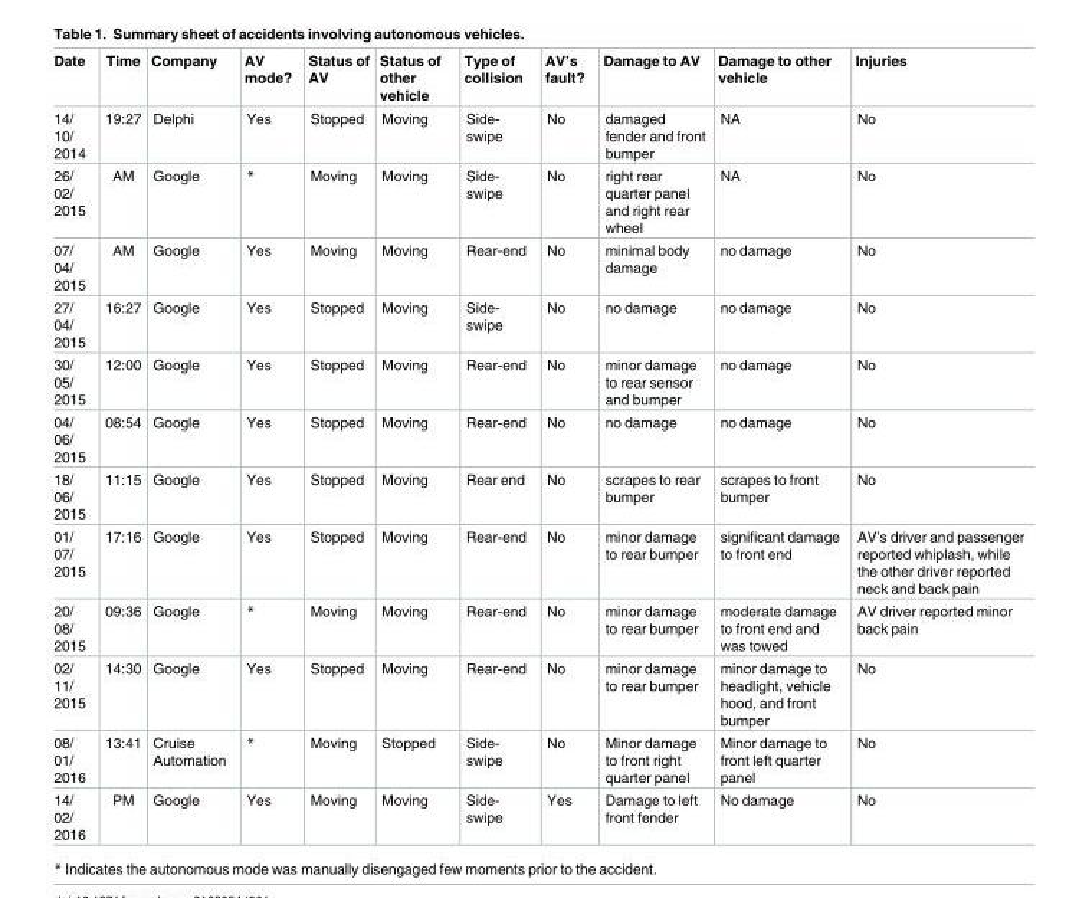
<table><thead><tr><td>Date</td><td>Time</td><td>Company</td><td>AV mode?</td><td>Status of AV</td><td>Status of other vehicle</td><td>Type of collision</td><td>AV’s fault?</td><td>Damage to AV</td><td>Damage to other vehicle</td><td>Injuries</td></tr></thead><tbody><tr><td>14/ 10/ 2014</td><td>19:27</td><td>Delphi</td><td>Yes</td><td>Stopped</td><td>Moving</td><td>Side- swipe</td><td>No</td><td>damaged fender and front bumper</td><td>NA</td><td>No</td></tr><tr><td>26/ 02/ 2015</td><td>AM</td><td>Google</td><td>*</td><td>Moving</td><td>Moving</td><td>Side- swipe</td><td>No</td><td>right rear quarter panel and right rear wheel</td><td>NA</td><td>No</td></tr><tr><td>07/ 04/ 2015</td><td>AM</td><td>Google</td><td>Yes</td><td>Moving</td><td>Moving</td><td>Rear-end</td><td>No</td><td>minimal body damage</td><td>no damage</td><td>No</td></tr><tr><td>27/ 04/ 2015</td><td>16:27</td><td>Google</td><td>Yes</td><td>Stopped</td><td>Moving</td><td>Side- swipe</td><td>No</td><td>no damage</td><td>no damage</td><td>No</td></tr><tr><td>30/ 05/ 2015</td><td>12:00</td><td>Google</td><td>Yes</td><td>Stopped</td><td>Moving</td><td>Rear-end</td><td>No</td><td>minor damage to rear sensor and bumper</td><td>no damage</td><td>No</td></tr><tr><td>04/ 06/ 2015</td><td>08:54</td><td>Google</td><td>Yes</td><td>Stopped</td><td>Moving</td><td>Rear-end</td><td>No</td><td>no damage</td><td>no damage</td><td>No</td></tr><tr><td>18/ 06/ 2015</td><td>11:15</td><td>Google</td><td>Yes</td><td>Stopped</td><td>Moving</td><td>Rear end</td><td>No</td><td>scrapes to rear bumper</td><td>scrapes to front bumper</td><td>No</td></tr><tr><td>01/ 07/ 2015</td><td>17:16</td><td>Google</td><td>Yes</td><td>Stopped</td><td>Moving</td><td>Rear-end</td><td>No</td><td>minor damage to rear bumper</td><td>significant damage to front end</td><td>AV’s driver and passenger reported whiplash, while the other driver reported neck and back pain</td></tr><tr><td>20/ 08/ 2015</td><td>09:36</td><td>Google</td><td>*</td><td>Moving</td><td>Moving</td><td>Rear-end</td><td>No</td><td>minor damage to rear bumper</td><td>moderate damage to front end and was towed</td><td>AV driver reported minor back pain</td></tr><tr><td>02/ 11/ 2015</td><td>14:30</td><td>Google</td><td>Yes</td><td>Stopped</td><td>Moving</td><td>Rear-end</td><td>No</td><td>minor damage to rear bumper</td><td>minor damage to headlight, vehicle hood, and front bumper</td><td>No</td></tr><tr><td>08/ 01/ 2016</td><td>13:41</td><td>Cruise Automation</td><td>*</td><td>Moving</td><td>Stopped</td><td>Side- swipe</td><td>No</td><td>Minor damage to front right quarter panel</td><td>Minor damage to front left quarter panel</td><td>No</td></tr><tr><td>14/ 02/ 2016</td><td>PM</td><td>Google</td><td>Yes</td><td>Moving</td><td>Moving</td><td>Side- swipe</td><td>Yes</td><td>Damage to left front fender</td><td>No damage</td><td>No</td></tr></tbody></table>